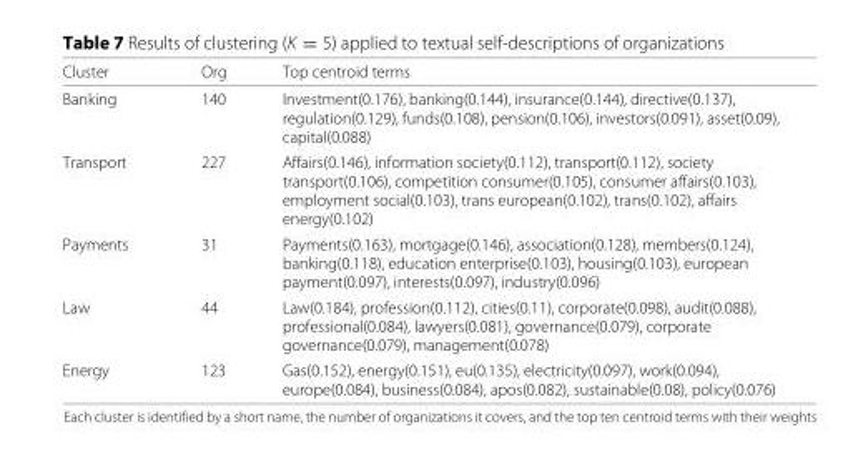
<table><thead><tr><td>Cluster</td><td>Org</td><td>Top centroid terms</td></tr></thead><tbody><tr><td>Banking</td><td>140</td><td>Investment(0.176), banking(0.144), insurance(0.144), directive(0.137), regulation(0.129), funds(0.108), pension(0.106), investors(0.091), asset(0.09), capital(0.088)</td></tr><tr><td>Transport</td><td>227</td><td>Affairs(0.146), information society(0.112), transport(0.112), society transport(0.106), competition consumer(0.105), consumer affairs(0.103), employment social(0.103), trans european(0.102), trans(0.102), affairs energy(0.102)</td></tr><tr><td>Payments</td><td>31</td><td>Payments(0.163), mortgage(0.146), association(0.128), members(0.124), banking(0.118), education enterprise(0.103), housing(0.103), european payment(0.097), interests(0.097), industry(0.096)</td></tr><tr><td>Law</td><td>44</td><td>Law(0.184), profession(0.112), cities(0.11), corporate(0.098), audit(0.088), professional(0.084), lawyers(0.081), governance(0.079), corporate governance(0.079), management(0.078)</td></tr><tr><td>Energy</td><td>123</td><td>Gas(0.152), energy(0.151), eu(0.135), electricity(0.097), work(0.094), europe(0.084), business(0.084), apos(0.082), sustainable(0.08), policy(0.076)</td></tr></tbody></table>